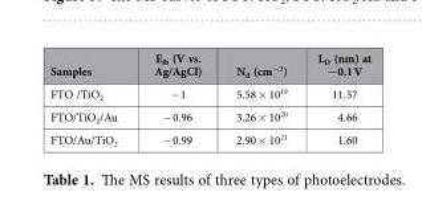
<table><thead><tr><td>Samples</td><td>E<sub>fb</sub> (V vs. Ag/AgCl)</td><td>N<sub>d</sub> (cm<sup>−3</sup>)</td><td>L<sub>D</sub> (nm) at −0.1 V</td></tr></thead><tbody><tr><td>FTO /TiO<sub>2</sub></td><td>− 1</td><td>5.58 × 10<sup>19</sup></td><td>11.57</td></tr><tr><td>FTO/TiO<sub>2</sub>/Au</td><td>− 0.96</td><td>3.26 × 10<sup>20</sup></td><td>4.66</td></tr><tr><td>FTO/Au/TiO<sub>2</sub></td><td>− 0.99</td><td>2.90 × 10<sup>21</sup></td><td>1.60</td></tr></tbody></table>